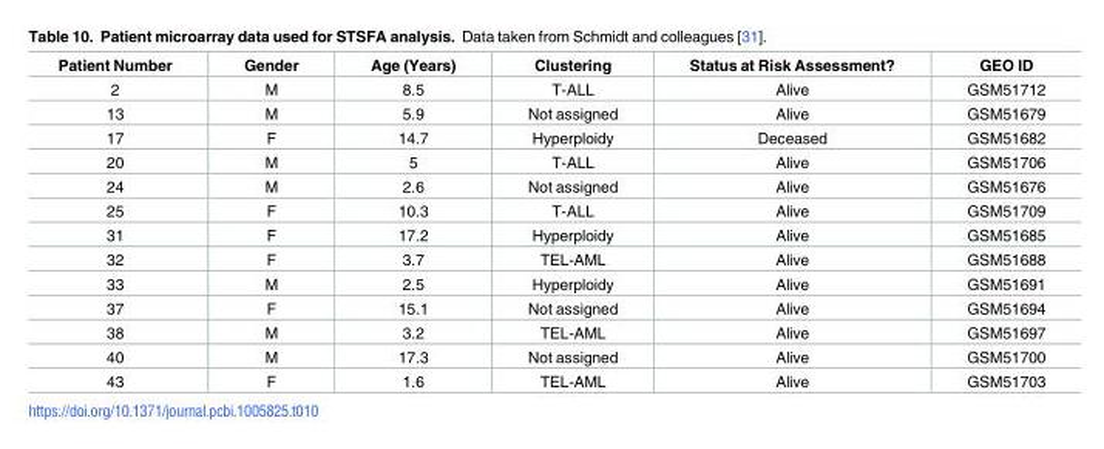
<table><thead><tr><td>Patient Number</td><td>Gender</td><td>Age (Years)</td><td>Clustering</td><td>Status at Risk Assessment?</td><td>GEO ID</td></tr></thead><tbody><tr><td>2</td><td>M</td><td>8.5</td><td>T-ALL</td><td>Alive</td><td>GSM51712</td></tr><tr><td>13</td><td>M</td><td>5.9</td><td>Not assigned</td><td>Alive</td><td>GSM51679</td></tr><tr><td>17</td><td>F</td><td>14.7</td><td>Hyperploidy</td><td>Deceased</td><td>GSM51682</td></tr><tr><td>20</td><td>M</td><td>5</td><td>T-ALL</td><td>Alive</td><td>GSM51706</td></tr><tr><td>24</td><td>M</td><td>2.6</td><td>Not assigned</td><td>Alive</td><td>GSM51676</td></tr><tr><td>25</td><td>F</td><td>10.3</td><td>T-ALL</td><td>Alive</td><td>GSM51709</td></tr><tr><td>31</td><td>F</td><td>17.2</td><td>Hyperploidy</td><td>Alive</td><td>GSM51685</td></tr><tr><td>32</td><td>F</td><td>3.7</td><td>TEL-AML</td><td>Alive</td><td>GSM51688</td></tr><tr><td>33</td><td>M</td><td>2.5</td><td>Hyperploidy</td><td>Alive</td><td>GSM51691</td></tr><tr><td>37</td><td>F</td><td>15.1</td><td>Not assigned</td><td>Alive</td><td>GSM51694</td></tr><tr><td>38</td><td>M</td><td>3.2</td><td>TEL-AML</td><td>Alive</td><td>GSM51697</td></tr><tr><td>40</td><td>M</td><td>17.3</td><td>Not assigned</td><td>Alive</td><td>GSM51700</td></tr><tr><td>43</td><td>F</td><td>1.6</td><td>TEL-AML</td><td>Alive</td><td>GSM51703</td></tr></tbody></table>